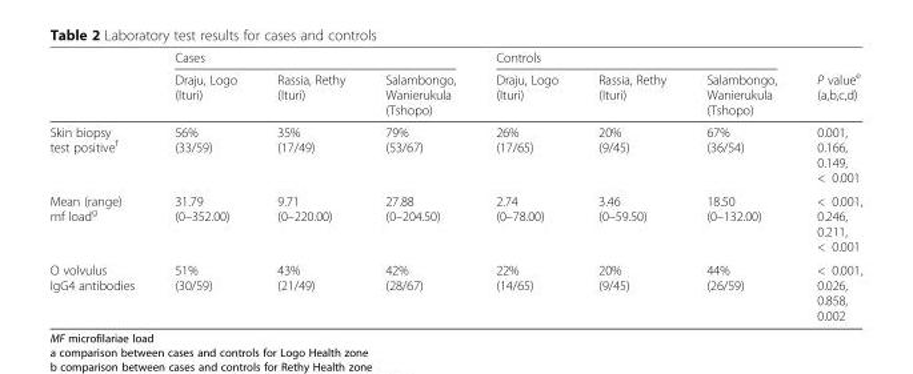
<table><thead><tr><td rowspan="2"></td><td colspan="3">Cases</td><td colspan="3">Controls</td><td rowspan="2">P value<sup>e</sup> (a,b,c,d)</td></tr><tr><td>Draju, Logo (Ituri)</td><td>Rassia, Rethy (Ituri)</td><td>Salambongo, Wanierukula (Tshopo)</td><td>Draju, Logo (Ituri)</td><td>Rassia, Rethy (Ituri)</td><td>Salambongo, Wanierukula (Tshopo)</td></tr></thead><tbody><tr><td>Skin biopsy test positive<sup>f</sup></td><td>56% (33/59)</td><td>35% (17/49)</td><td>79% (53/67)</td><td>26% (17/65)</td><td>20% (9/45)</td><td>67% (36/54)</td><td>0.001, 0.166, 0.149, &lt; 0.001</td></tr><tr><td>Mean (range) mf load<sup>g</sup></td><td>31.79 (0–352.00)</td><td>9.71 (0–220.00)</td><td>27.88 (0–204.50)</td><td>2.74 (0–78.00)</td><td>3.46 (0–59.50)</td><td>18.50 (0–132.00)</td><td>&lt; 0.001, 0.246, 0.211, &lt; 0.001</td></tr><tr><td>O volvulus IgG4 antibodies</td><td>51% (30/59)</td><td>43% (21/49)</td><td>42% (28/67)</td><td>22% (14/65)</td><td>20% (9/45)</td><td>44% (26/59)</td><td>&lt; 0.001, 0.026, 0.858, 0.002</td></tr></tbody></table>